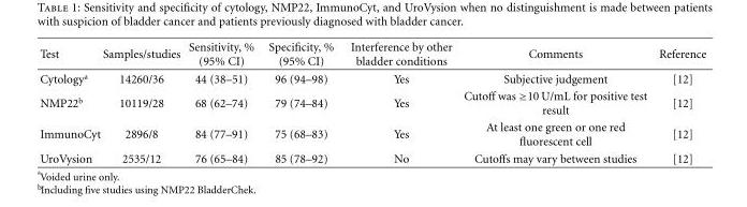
<table><thead><tr><td>Test</td><td>Samples/studies</td><td>Sensitivity, % (95% CI)</td><td>Specificity, % (95% CI)</td><td>Interference by other bladder conditions</td><td>Comments</td><td>Reference</td></tr></thead><tbody><tr><td>Cytology<sup>a</sup></td><td>14260/36</td><td>44 (38–51)</td><td>96 (94–98)</td><td>Yes</td><td>Subjective judgement</td><td>[12]</td></tr><tr><td>NMP22<sup>b</sup></td><td>10119/28</td><td>68 (62–74)</td><td>79 (74–84)</td><td>Yes</td><td>Cutoff was ≥10 U/mL for positive test result</td><td>[12]</td></tr><tr><td>ImmunoCyt</td><td>2896/8</td><td>84 (77–91)</td><td>75 (68–83)</td><td>Yes</td><td>At least one green or one red fluorescent cell</td><td>[12]</td></tr><tr><td>UroVysion</td><td>2535/12</td><td>76 (65–84)</td><td>85 (78–92)</td><td>No</td><td>Cutoffs may vary between studies</td><td>[12]</td></tr></tbody></table>